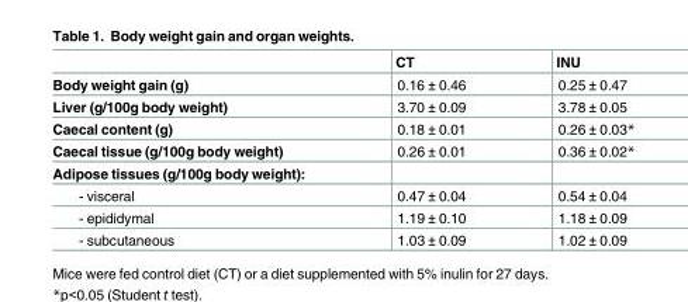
<table><thead><tr><td></td><td>CT</td><td>INU</td></tr></thead><tbody><tr><td>Body weight gain (g)</td><td>0.16 ± 0.46</td><td>0.25 ± 0.47</td></tr><tr><td>Liver (g/100g body weight)</td><td>3.70 ± 0.09</td><td>3.78 ± 0.05</td></tr><tr><td>Caecal content (g)</td><td>0.18 ± 0.01</td><td>0.26 ± 0.03*</td></tr><tr><td>Caecal tissue (g/100g body weight)</td><td>0.26 ± 0.01</td><td>0.36 ± 0.02*</td></tr><tr><td colspan="3">Adipose tissues (g/100g body weight):</td></tr><tr><td>- visceral</td><td>0.47 ± 0.04</td><td>0.54 ± 0.04</td></tr><tr><td>- epididymal</td><td>1.19 ± 0.10</td><td>1.18 ± 0.09</td></tr><tr><td>- subcutaneous</td><td>1.03 ± 0.09</td><td>1.02 ± 0.09</td></tr></tbody></table>